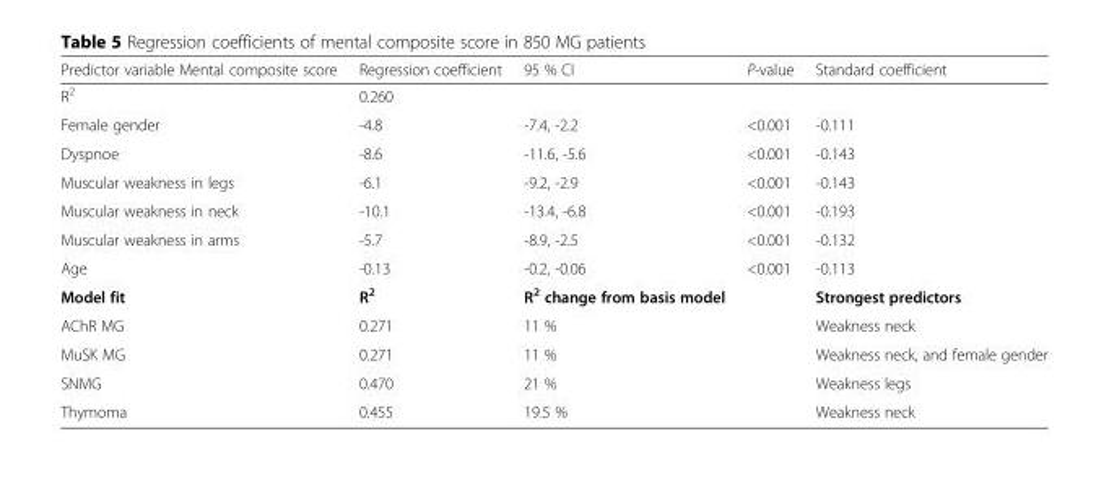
<table><thead><tr><td>Predictor variable Mental composite score</td><td>Regression coefficient</td><td>95 % CI</td><td>P-value</td><td>Standard coefficient</td></tr></thead><tbody><tr><td>R<sup>2</sup></td><td>0.260</td><td></td><td></td><td></td></tr><tr><td>Female gender</td><td>-4.8</td><td>-7.4, -2.2</td><td>&lt;0.001</td><td>-0.111</td></tr><tr><td>Dyspnoe</td><td>-8.6</td><td>-11.6, -5.6</td><td>&lt;0.001</td><td>-0.143</td></tr><tr><td>Muscular weakness in legs</td><td>-6.1</td><td>-9.2, -2.9</td><td>&lt;0.001</td><td>-0.143</td></tr><tr><td>Muscular weakness in neck</td><td>-10.1</td><td>-13.4, -6.8</td><td>&lt;0.001</td><td>-0.193</td></tr><tr><td>Muscular weakness in arms</td><td>-5.7</td><td>-8.9, -2.5</td><td>&lt;0.001</td><td>-0.132</td></tr><tr><td>Age</td><td>-0.13</td><td>-0.2, -0.06</td><td>&lt;0.001</td><td>-0.113</td></tr><tr><td>Model fit</td><td>R<sup>2</sup></td><td>R<sup>2</sup> change from basis model</td><td></td><td>Strongest predictors</td></tr><tr><td>AChR MG</td><td>0.271</td><td>11 %</td><td></td><td>Weakness neck</td></tr><tr><td>MuSK MG</td><td>0.271</td><td>11 %</td><td></td><td>Weakness neck, and female gender</td></tr><tr><td>SNMG</td><td>0.470</td><td>21 %</td><td></td><td>Weakness legs</td></tr><tr><td>Thymoma</td><td>0.455</td><td>19.5 %</td><td></td><td>Weakness neck</td></tr></tbody></table>